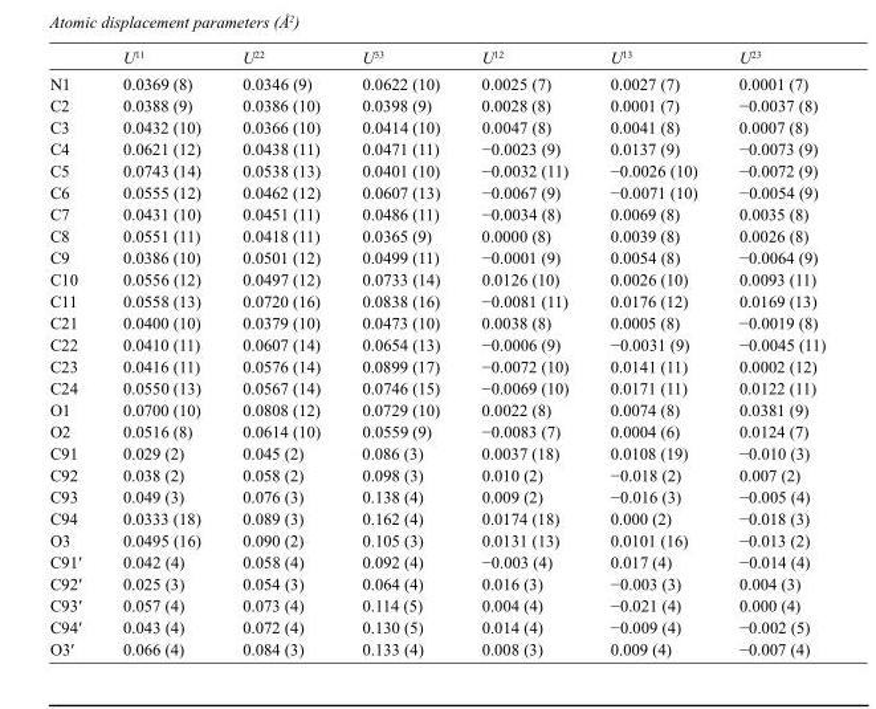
<table><thead><tr><td></td><td>U<sup>11</sup></td><td>U<sup>22</sup></td><td>U<sup>33</sup></td><td>U<sup>12</sup></td><td>U<sup>13</sup></td><td>U<sup>23</sup></td></tr></thead><tbody><tr><td>N1</td><td>0.0369 (8)</td><td>0.0346 (9)</td><td>0.0622 (10)</td><td>0.0025 (7)</td><td>0.0027 (7)</td><td>0.0001 (7)</td></tr><tr><td>C2</td><td>0.0388 (9)</td><td>0.0386 (10)</td><td>0.0398 (9)</td><td>0.0028 (8)</td><td>0.0001 (7)</td><td>−0.0037 (8)</td></tr><tr><td>C3</td><td>0.0432 (10)</td><td>0.0366 (10)</td><td>0.0414 (10)</td><td>0.0047 (8)</td><td>0.0041 (8)</td><td>0.0007 (8)</td></tr><tr><td>C4</td><td>0.0621 (12)</td><td>0.0438 (11)</td><td>0.0471 (11)</td><td>−0.0023 (9)</td><td>0.0137 (9)</td><td>−0.0073 (9)</td></tr><tr><td>C5</td><td>0.0743 (14)</td><td>0.0538 (13)</td><td>0.0401 (10)</td><td>−0.0032 (11)</td><td>−0.0026 (10)</td><td>−0.0072 (9)</td></tr><tr><td>C6</td><td>0.0555 (12)</td><td>0.0462 (12)</td><td>0.0607 (13)</td><td>−0.0067 (9)</td><td>−0.0071 (10)</td><td>−0.0054 (9)</td></tr><tr><td>C7</td><td>0.0431 (10)</td><td>0.0451 (11)</td><td>0.0486 (11)</td><td>−0.0034 (8)</td><td>0.0069 (8)</td><td>0.0035 (8)</td></tr><tr><td>C8</td><td>0.0551 (11)</td><td>0.0418 (11)</td><td>0.0365 (9)</td><td>0.0000 (8)</td><td>0.0039 (8)</td><td>0.0026 (8)</td></tr><tr><td>C9</td><td>0.0386 (10)</td><td>0.0501 (12)</td><td>0.0499 (11)</td><td>−0.0001 (9)</td><td>0.0054 (8)</td><td>−0.0064 (9)</td></tr><tr><td>C10</td><td>0.0556 (12)</td><td>0.0497 (12)</td><td>0.0733 (14)</td><td>0.0126 (10)</td><td>0.0026 (10)</td><td>0.0093 (11)</td></tr><tr><td>C11</td><td>0.0558 (13)</td><td>0.0720 (16)</td><td>0.0838 (16)</td><td>−0.0081 (11)</td><td>0.0176 (12)</td><td>0.0169 (13)</td></tr><tr><td>C21</td><td>0.0400 (10)</td><td>0.0379 (10)</td><td>0.0473 (10)</td><td>0.0038 (8)</td><td>0.0005 (8)</td><td>−0.0019 (8)</td></tr><tr><td>C22</td><td>0.0410 (11)</td><td>0.0607 (14)</td><td>0.0654 (13)</td><td>−0.0006 (9)</td><td>−0.0031 (9)</td><td>−0.0045 (11)</td></tr><tr><td>C23</td><td>0.0416 (11)</td><td>0.0576 (14)</td><td>0.0899 (17)</td><td>−0.0072 (10)</td><td>0.0141 (11)</td><td>0.0002 (12)</td></tr><tr><td>C24</td><td>0.0550 (13)</td><td>0.0567 (14)</td><td>0.0746 (15)</td><td>−0.0069 (10)</td><td>0.0171 (11)</td><td>0.0122 (11)</td></tr><tr><td>O1</td><td>0.0700 (10)</td><td>0.0808 (12)</td><td>0.0729 (10)</td><td>0.0022 (8)</td><td>0.0074 (8)</td><td>0.0381 (9)</td></tr><tr><td>O2</td><td>0.0516 (8)</td><td>0.0614 (10)</td><td>0.0559 (9)</td><td>−0.0083 (7)</td><td>0.0004 (6)</td><td>0.0124 (7)</td></tr><tr><td>C91</td><td>0.029 (2)</td><td>0.045 (2)</td><td>0.086 (3)</td><td>0.0037 (18)</td><td>0.0108 (19)</td><td>−0.010 (3)</td></tr><tr><td>C92</td><td>0.038 (2)</td><td>0.058 (2)</td><td>0.098 (3)</td><td>0.010 (2)</td><td>−0.018 (2)</td><td>0.007 (2)</td></tr><tr><td>C93</td><td>0.049 (3)</td><td>0.076 (3)</td><td>0.138 (4)</td><td>0.009 (2)</td><td>−0.016 (3)</td><td>−0.005 (4)</td></tr><tr><td>C94</td><td>0.0333 (18)</td><td>0.089 (3)</td><td>0.162 (4)</td><td>0.0174 (18)</td><td>0.000 (2)</td><td>−0.018 (3)</td></tr><tr><td>O3</td><td>0.0495 (16)</td><td>0.090 (2)</td><td>0.105 (3)</td><td>0.0131 (13)</td><td>0.0101 (16)</td><td>−0.013 (2)</td></tr><tr><td>C91′</td><td>0.042 (4)</td><td>0.058 (4)</td><td>0.092 (4)</td><td>−0.003 (4)</td><td>0.017 (4)</td><td>−0.014 (4)</td></tr><tr><td>C92′</td><td>0.025 (3)</td><td>0.054 (3)</td><td>0.064 (4)</td><td>0.016 (3)</td><td>−0.003 (3)</td><td>0.004 (3)</td></tr><tr><td>C93′</td><td>0.057 (4)</td><td>0.073 (4)</td><td>0.114 (5)</td><td>0.004 (4)</td><td>−0.021 (4)</td><td>0.000 (4)</td></tr><tr><td>C94′</td><td>0.043 (4)</td><td>0.072 (4)</td><td>0.130 (5)</td><td>0.014 (4)</td><td>−0.009 (4)</td><td>−0.002 (5)</td></tr><tr><td>O3′</td><td>0.066 (4)</td><td>0.084 (3)</td><td>0.133 (4)</td><td>0.008 (3)</td><td>0.009 (4)</td><td>−0.007 (4)</td></tr></tbody></table>